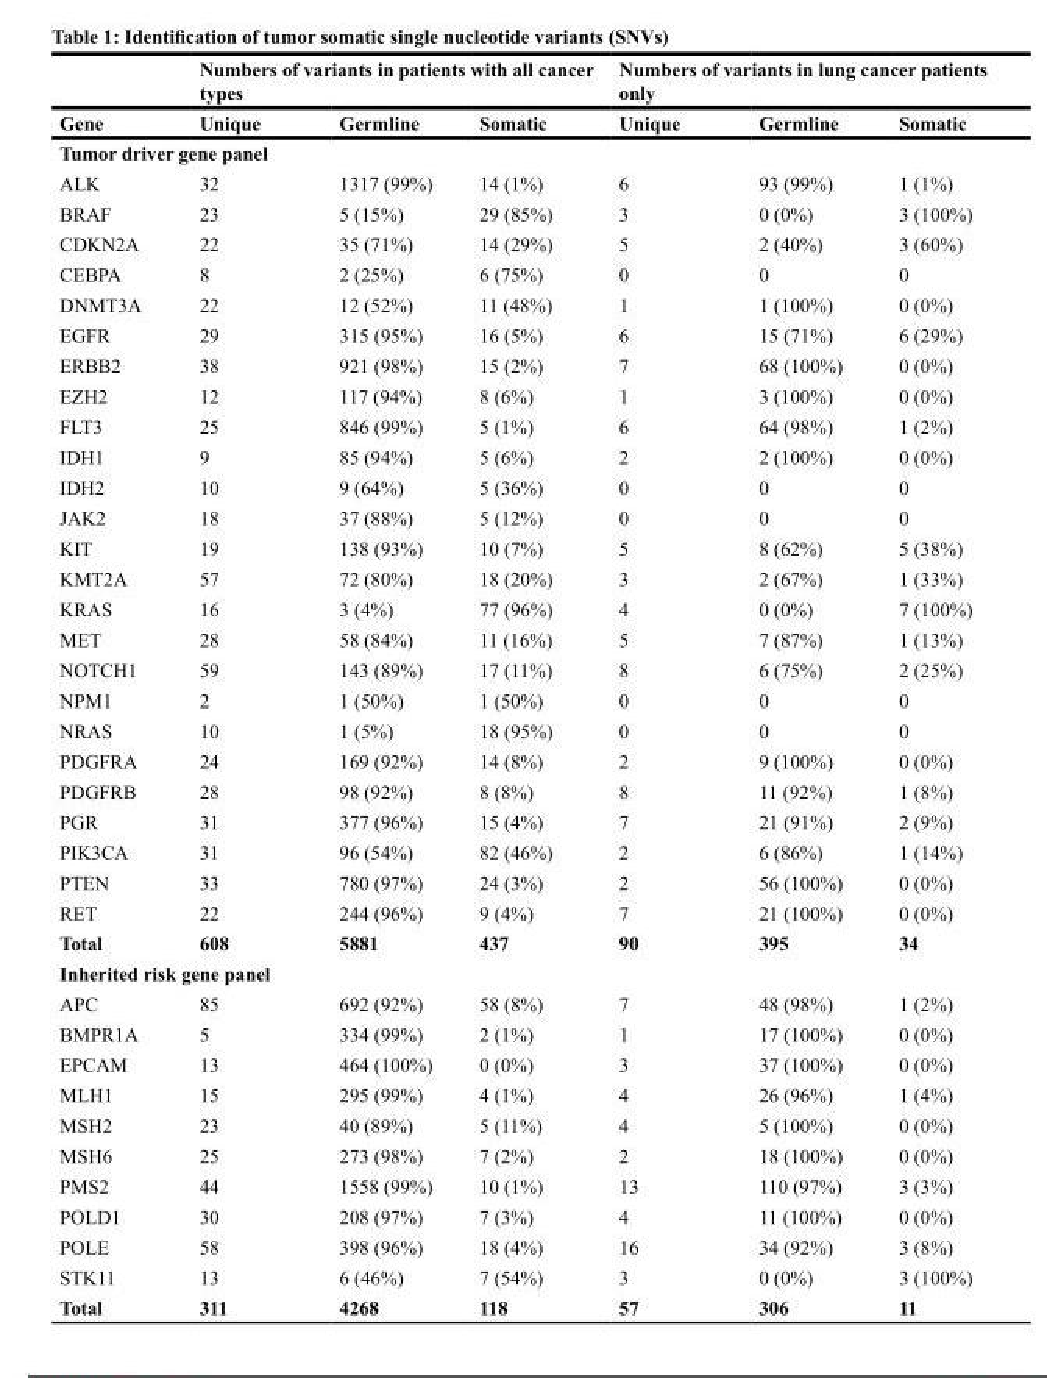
<table><thead><tr><td rowspan="2">Gene</td><td colspan="3">Numbers of variants in patients with all cancer types</td><td colspan="3">Numbers of variants in lung cancer patients only</td></tr><tr><td>Unique</td><td>Germline</td><td>Somatic</td><td>Unique</td><td>Germline</td><td>Somatic</td></tr></thead><tbody><tr><td colspan="7">Tumor driver gene panel</td></tr><tr><td>ALK</td><td>32</td><td>1317 (99%)</td><td>14 (1%)</td><td>6</td><td>93 (99%)</td><td>1 (1%)</td></tr><tr><td>BRAF</td><td>23</td><td>5 (15%)</td><td>29 (85%)</td><td>3</td><td>0 (0%)</td><td>3 (100%)</td></tr><tr><td>CDKN2A</td><td>22</td><td>35 (71%)</td><td>14 (29%)</td><td>5</td><td>2 (40%)</td><td>3 (60%)</td></tr><tr><td>CEBPA</td><td>8</td><td>2 (25%)</td><td>6 (75%)</td><td>0</td><td>0</td><td>0</td></tr><tr><td>DNMT3A</td><td>22</td><td>12 (52%)</td><td>11 (48%)</td><td>1</td><td>1 (100%)</td><td>0 (0%)</td></tr><tr><td>EGFR</td><td>29</td><td>315 (95%)</td><td>16 (5%)</td><td>6</td><td>15 (71%)</td><td>6 (29%)</td></tr><tr><td>ERBB2</td><td>38</td><td>921 (98%)</td><td>15 (2%)</td><td>7</td><td>68 (100%)</td><td>0 (0%)</td></tr><tr><td>EZH2</td><td>12</td><td>117 (94%)</td><td>8 (6%)</td><td>1</td><td>3 (100%)</td><td>0 (0%)</td></tr><tr><td>FLT3</td><td>25</td><td>846 (99%)</td><td>5 (1%)</td><td>6</td><td>64 (98%)</td><td>1 (2%)</td></tr><tr><td>IDH1</td><td>9</td><td>85 (94%)</td><td>5 (6%)</td><td>2</td><td>2 (100%)</td><td>0 (0%)</td></tr><tr><td>IDH2</td><td>10</td><td>9 (64%)</td><td>5 (36%)</td><td>0</td><td>0</td><td>0</td></tr><tr><td>JAK2</td><td>18</td><td>37 (88%)</td><td>5 (12%)</td><td>0</td><td>0</td><td>0</td></tr><tr><td>KIT</td><td>19</td><td>138 (93%)</td><td>10 (7%)</td><td>5</td><td>8 (62%)</td><td>5 (38%)</td></tr><tr><td>KMT2A</td><td>57</td><td>72 (80%)</td><td>18 (20%)</td><td>3</td><td>2 (67%)</td><td>1 (33%)</td></tr><tr><td>KRAS</td><td>16</td><td>3 (4%)</td><td>77 (96%)</td><td>4</td><td>0 (0%)</td><td>7 (100%)</td></tr><tr><td>MET</td><td>28</td><td>58 (84%)</td><td>11 (16%)</td><td>5</td><td>7 (87%)</td><td>1 (13%)</td></tr><tr><td>NOTCH1</td><td>59</td><td>143 (89%)</td><td>17 (11%)</td><td>8</td><td>6 (75%)</td><td>2 (25%)</td></tr><tr><td>NPM1</td><td>2</td><td>1 (50%)</td><td>1 (50%)</td><td>0</td><td>0</td><td>0</td></tr><tr><td>NRAS</td><td>10</td><td>1 (5%)</td><td>18 (95%)</td><td>0</td><td>0</td><td>0</td></tr><tr><td>PDGFRA</td><td>24</td><td>169 (92%)</td><td>14 (8%)</td><td>2</td><td>9 (100%)</td><td>0 (0%)</td></tr><tr><td>PDGFRB</td><td>28</td><td>98 (92%)</td><td>8 (8%)</td><td>8</td><td>11 (92%)</td><td>1 (8%)</td></tr><tr><td>PGR</td><td>31</td><td>377 (96%)</td><td>15 (4%)</td><td>7</td><td>21 (91%)</td><td>2 (9%)</td></tr><tr><td>PIK3CA</td><td>31</td><td>96 (54%)</td><td>82 (46%)</td><td>2</td><td>6 (86%)</td><td>1 (14%)</td></tr><tr><td>PTEN</td><td>33</td><td>780 (97%)</td><td>24 (3%)</td><td>2</td><td>56 (100%)</td><td>0 (0%)</td></tr><tr><td>RET</td><td>22</td><td>244 (96%)</td><td>9 (4%)</td><td>7</td><td>21 (100%)</td><td>0 (0%)</td></tr><tr><td>Total</td><td>608</td><td>5881</td><td>437</td><td>90</td><td>395</td><td>34</td></tr><tr><td colspan="7">Inherited risk gene panel</td></tr><tr><td>APC</td><td>85</td><td>692 (92%)</td><td>58 (8%)</td><td>7</td><td>48 (98%)</td><td>1 (2%)</td></tr><tr><td>BMPR1A</td><td>5</td><td>334 (99%)</td><td>2 (1%)</td><td>1</td><td>17 (100%)</td><td>0 (0%)</td></tr><tr><td>EPCAM</td><td>13</td><td>464 (100%)</td><td>0 (0%)</td><td>3</td><td>37 (100%)</td><td>0 (0%)</td></tr><tr><td>MLH1</td><td>15</td><td>295 (99%)</td><td>4 (1%)</td><td>4</td><td>26 (96%)</td><td>1 (4%)</td></tr><tr><td>MSH2</td><td>23</td><td>40 (89%)</td><td>5 (11%)</td><td>4</td><td>5 (100%)</td><td>0 (0%)</td></tr><tr><td>MSH6</td><td>25</td><td>273 (98%)</td><td>7 (2%)</td><td>2</td><td>18 (100%)</td><td>0 (0%)</td></tr><tr><td>PMS2</td><td>44</td><td>1558 (99%)</td><td>10 (1%)</td><td>13</td><td>110 (97%)</td><td>3 (3%)</td></tr><tr><td>POLD1</td><td>30</td><td>208 (97%)</td><td>7 (3%)</td><td>4</td><td>11 (100%)</td><td>0 (0%)</td></tr><tr><td>POLE</td><td>58</td><td>398 (96%)</td><td>18 (4%)</td><td>16</td><td>34 (92%)</td><td>3 (8%)</td></tr><tr><td>STK11</td><td>13</td><td>6 (46%)</td><td>7 (54%)</td><td>3</td><td>0 (0%)</td><td>3 (100%)</td></tr><tr><td>Total</td><td>311</td><td>4268</td><td>118</td><td>57</td><td>306</td><td>11</td></tr></tbody></table>